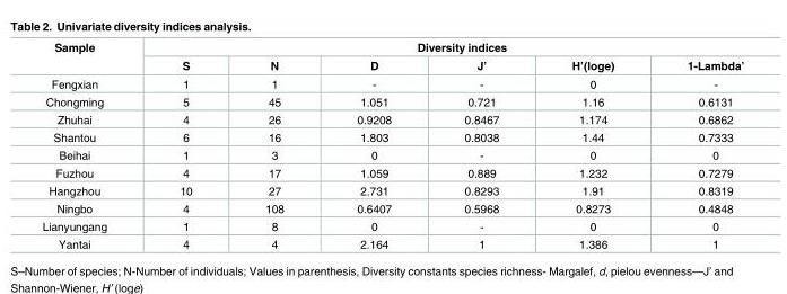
<table><thead><tr><td rowspan="2">Sample</td><td colspan="6">Diversity indices</td></tr><tr><td>S</td><td>N</td><td>D</td><td>J’</td><td>H’(loge)</td><td>1-Lambda’</td></tr></thead><tbody><tr><td>Fengxian</td><td>1</td><td>1</td><td>-</td><td>-</td><td>0</td><td>-</td></tr><tr><td>Chongming</td><td>5</td><td>45</td><td>1.051</td><td>0.721</td><td>1.16</td><td>0.6131</td></tr><tr><td>Zhuhai</td><td>4</td><td>26</td><td>0.9208</td><td>0.8467</td><td>1.174</td><td>0.6862</td></tr><tr><td>Shantou</td><td>6</td><td>16</td><td>1.803</td><td>0.8038</td><td>1.44</td><td>0.7333</td></tr><tr><td>Beihai</td><td>1</td><td>3</td><td>0</td><td>-</td><td>0</td><td>0</td></tr><tr><td>Fuzhou</td><td>4</td><td>17</td><td>1.059</td><td>0.889</td><td>1.232</td><td>0.7279</td></tr><tr><td>Hangzhou</td><td>10</td><td>27</td><td>2.731</td><td>0.8293</td><td>1.91</td><td>0.8319</td></tr><tr><td>Ningbo</td><td>4</td><td>108</td><td>0.6407</td><td>0.5968</td><td>0.8273</td><td>0.4848</td></tr><tr><td>Lianyungang</td><td>1</td><td>8</td><td>0</td><td>-</td><td>0</td><td>0</td></tr><tr><td>Yantai</td><td>4</td><td>4</td><td>2.164</td><td>1</td><td>1.386</td><td>1</td></tr></tbody></table>